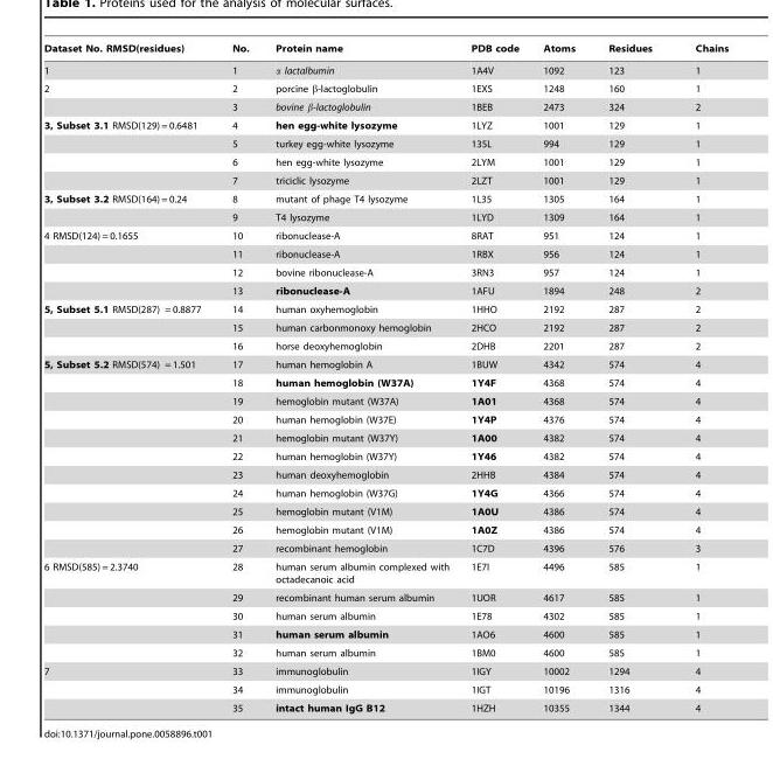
<table><thead><tr><td>Dataset No. RMSD(residues)</td><td>No.</td><td>Protein name</td><td>PDB code</td><td>Atoms</td><td>Residues</td><td>Chains</td></tr></thead><tbody><tr><td>1</td><td>1</td><td>α lactalbumin</td><td>1A4V</td><td>1092</td><td>123</td><td>1</td></tr><tr><td rowspan="2">2</td><td>2</td><td>porcine β-lactoglobulin</td><td>1EXS</td><td>1248</td><td>160</td><td>1</td></tr><tr><td>3</td><td>bovine β-lactoglobulin</td><td>1BEB</td><td>2473</td><td>324</td><td>2</td></tr><tr><td rowspan="4">3, Subset 3.1 RMSD(129) = 0.6481</td><td>4</td><td>hen egg-white lysozyme</td><td>1LYZ</td><td>1001</td><td>129</td><td>1</td></tr><tr><td>5</td><td>turkey egg-white lysozyme</td><td>135L</td><td>994</td><td>129</td><td>1</td></tr><tr><td>6</td><td>hen egg-white lysozyme</td><td>2LYM</td><td>1001</td><td>129</td><td>1</td></tr><tr><td>7</td><td>triciclic lysozyme</td><td>2LZT</td><td>1001</td><td>129</td><td>1</td></tr><tr><td rowspan="2">3, Subset 3.2 RMSD(164) = 0.24</td><td>8</td><td>mutant of phage T4 lysozyme</td><td>1L35</td><td>1305</td><td>164</td><td>1</td></tr><tr><td>9</td><td>T4 lysozyme</td><td>1LYD</td><td>1309</td><td>164</td><td>1</td></tr><tr><td rowspan="4">4 RMSD(124) = 0.1655</td><td>10</td><td>ribonuclease-A</td><td>8RAT</td><td>951</td><td>124</td><td>1</td></tr><tr><td>11</td><td>ribonuclease-A</td><td>1RBX</td><td>956</td><td>124</td><td>1</td></tr><tr><td>12</td><td>bovine ribonuclease-A</td><td>3RN3</td><td>957</td><td>124</td><td>1</td></tr><tr><td>13</td><td>ribonuclease-A</td><td>1AFU</td><td>1894</td><td>248</td><td>2</td></tr><tr><td rowspan="3">5, Subset 5.1 RMSD(287) = 0.8877</td><td>14</td><td>human oxyhemoglobin</td><td>1HHO</td><td>2192</td><td>287</td><td>2</td></tr><tr><td>15</td><td>human carbonmonoxy hemoglobin</td><td>2HCO</td><td>2192</td><td>287</td><td>2</td></tr><tr><td>16</td><td>horse deoxyhemoglobin</td><td>2DHB</td><td>2201</td><td>287</td><td>2</td></tr><tr><td rowspan="11">5, Subset 5.2 RMSD(574) = 1.501</td><td>17</td><td>human hemoglobin A</td><td>1BUW</td><td>4342</td><td>574</td><td>4</td></tr><tr><td>18</td><td>human hemoglobin (W37A)</td><td>1Y4F</td><td>4368</td><td>574</td><td>4</td></tr><tr><td>19</td><td>hemoglobin mutant (W37A)</td><td>1A01</td><td>4368</td><td>574</td><td>4</td></tr><tr><td>20</td><td>human hemoglobin (W37E)</td><td>1Y4P</td><td>4376</td><td>574</td><td>4</td></tr><tr><td>21</td><td>hemoglobin mutant (W37Y)</td><td>1A00</td><td>4382</td><td>574</td><td>4</td></tr><tr><td>22</td><td>human hemoglobin (W37Y)</td><td>1Y46</td><td>4382</td><td>574</td><td>4</td></tr><tr><td>23</td><td>human deoxyhemoglobin</td><td>2HHB</td><td>4384</td><td>574</td><td>4</td></tr><tr><td>24</td><td>human hemoglobin (W37G)</td><td>1Y4G</td><td>4366</td><td>574</td><td>4</td></tr><tr><td>25</td><td>hemoglobin mutant (V1M)</td><td>1A0U</td><td>4386</td><td>574</td><td>4</td></tr><tr><td>26</td><td>hemoglobin mutant (V1M)</td><td>1A0Z</td><td>4386</td><td>574</td><td>4</td></tr><tr><td>27</td><td>recombinant hemoglobin</td><td>1C7D</td><td>4396</td><td>576</td><td>3</td></tr><tr><td rowspan="5">6 RMSD(585) = 2.3740</td><td>28</td><td>human serum albumin complexed with octadecanoic acid</td><td>1E7I</td><td>4496</td><td>585</td><td>1</td></tr><tr><td>29</td><td>recombinant human serum albumin</td><td>1UOR</td><td>4617</td><td>585</td><td>1</td></tr><tr><td>30</td><td>human serum albumin</td><td>1E78</td><td>4302</td><td>585</td><td>1</td></tr><tr><td>31</td><td>human serum albumin</td><td>1AO6</td><td>4600</td><td>585</td><td>1</td></tr><tr><td>32</td><td>human serum albumin</td><td>1BM0</td><td>4600</td><td>585</td><td>1</td></tr><tr><td rowspan="3">7</td><td>33</td><td>immunoglobulin</td><td>1IGY</td><td>10002</td><td>1294</td><td>4</td></tr><tr><td>34</td><td>immunoglobulin</td><td>1IGT</td><td>10196</td><td>1316</td><td>4</td></tr><tr><td>35</td><td>intact human IgG B12</td><td>1HZH</td><td>10355</td><td>1344</td><td>4</td></tr></tbody></table>